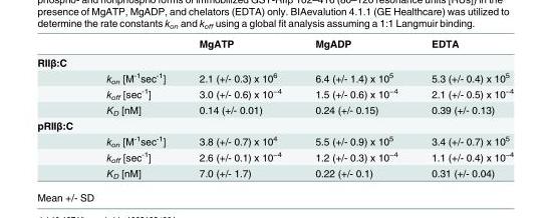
<table><thead><tr><td></td><td></td><td>MgATP</td><td>MgADP</td><td>EDTA</td></tr></thead><tbody><tr><td colspan="5">RIIβ:C</td></tr><tr><td></td><td>k<sub>on</sub> [M<sup>-1</sup>sec<sup>-1</sup>]</td><td>2.1 (+/- 0.3) x 10<sup>6</sup></td><td>6.4 (+/- 1.4) x 10<sup>5</sup></td><td>5.3 (+/- 0.4) x 10<sup>5</sup></td></tr><tr><td></td><td>k<sub>off</sub> [sec<sup>-1</sup>]</td><td>3.0 (+/- 0.6) x 10<sup>−4</sup></td><td>1.5 (+/- 0.6) x 10<sup>−4</sup></td><td>2.1 (+/- 0.5) x 10<sup>−4</sup></td></tr><tr><td></td><td>K<sub>D</sub> [nM]</td><td>0.14 (+/- 0.01)</td><td>0.24 (+/- 0.15)</td><td>0.39 (+/- 0.13)</td></tr><tr><td colspan="5">pRIIβ:C</td></tr><tr><td></td><td>k<sub>on</sub> [M<sup>-1</sup>sec<sup>-1</sup>]</td><td>3.8 (+/- 0.7) x 10<sup>4</sup></td><td>5.5 (+/- 0.9) x 10<sup>5</sup></td><td>3.4 (+/- 0.7) x 10<sup>5</sup></td></tr><tr><td></td><td>k<sub>off</sub> [sec<sup>-1</sup>]</td><td>2.6 (+/- 0.1) x 10<sup>−4</sup></td><td>1.2 (+/- 0.3) x 10<sup>−4</sup></td><td>1.1 (+/- 0.4) x 10<sup>−4</sup></td></tr><tr><td></td><td>K<sub>D</sub> [nM]</td><td>7.0 (+/- 1.7)</td><td>0.22 (+/- 0.1)</td><td>0.31 (+/- 0.04)</td></tr></tbody></table>